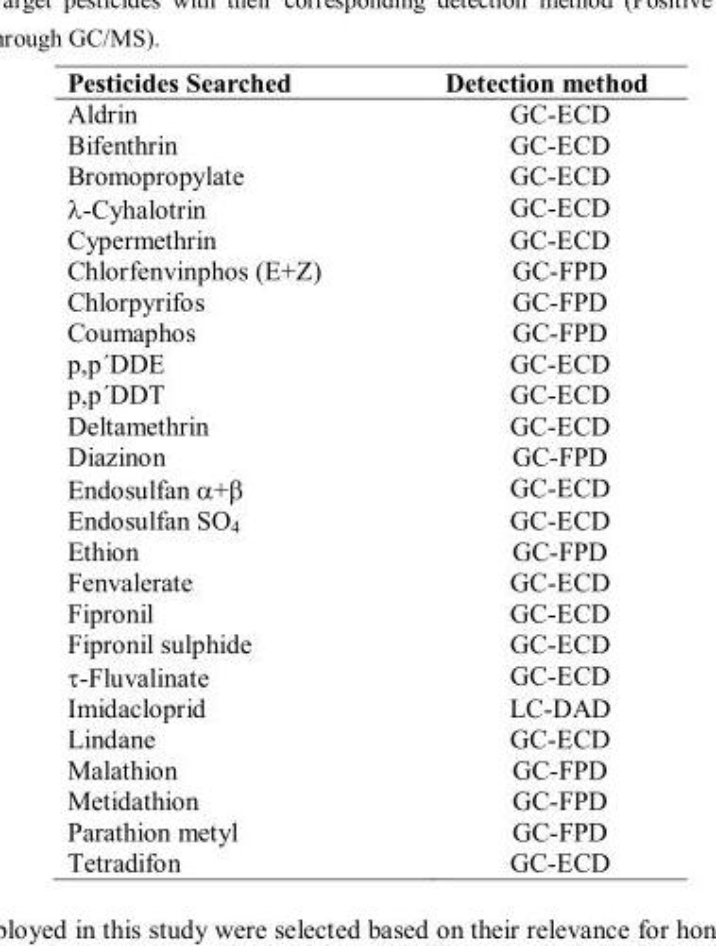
<table><thead><tr><td>Pesticides Searched</td><td>Detection method</td></tr></thead><tbody><tr><td>Aldrin</td><td>GC-ECD</td></tr><tr><td>Bifenthrin</td><td>GC-ECD</td></tr><tr><td>Bromopropylate</td><td>GC-ECD</td></tr><tr><td>λ-Cyhalotrin</td><td>GC-ECD</td></tr><tr><td>Cypermethrin</td><td>GC-ECD</td></tr><tr><td>Chlorfenvinphos (E+Z)</td><td>GC-FPD</td></tr><tr><td>Chlorpyrifos</td><td>GC-FPD</td></tr><tr><td>Coumaphos</td><td>GC-FPD</td></tr><tr><td>p,p´DDE</td><td>GC-ECD</td></tr><tr><td>p,p´DDT</td><td>GC-ECD</td></tr><tr><td>Deltamethrin</td><td>GC-ECD</td></tr><tr><td>Diazinon</td><td>GC-FPD</td></tr><tr><td>Endosulfan α+β</td><td>GC-ECD</td></tr><tr><td>Endosulfan SO<sub>4</sub></td><td>GC-ECD</td></tr><tr><td>Ethion</td><td>GC-FPD</td></tr><tr><td>Fenvalerate</td><td>GC-ECD</td></tr><tr><td>Fipronil</td><td>GC-ECD</td></tr><tr><td>Fipronil sulphide</td><td>GC-ECD</td></tr><tr><td>τ-Fluvalinate</td><td>GC-ECD</td></tr><tr><td>Imidacloprid</td><td>LC-DAD</td></tr><tr><td>Lindane</td><td>GC-ECD</td></tr><tr><td>Malathion</td><td>GC-FPD</td></tr><tr><td>Metidathion</td><td>GC-FPD</td></tr><tr><td>Parathion metyl</td><td>GC-FPD</td></tr><tr><td>Tetradifon</td><td>GC-ECD</td></tr></tbody></table>